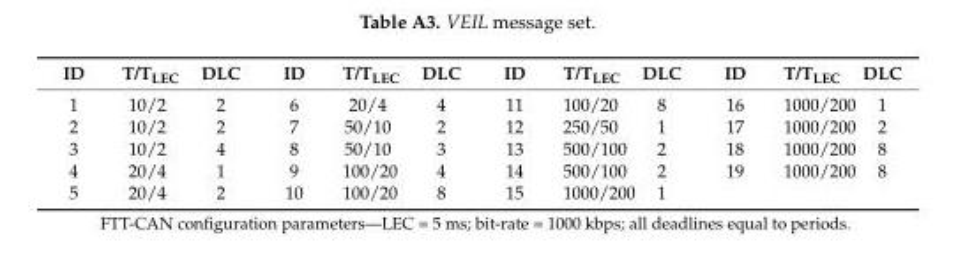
<table><thead><tr><td>ID</td><td>T/T<sub>LEC</sub></td><td>DLC</td><td>ID</td><td>T/T<sub>LEC</sub></td><td>DLC</td><td>ID</td><td>T/T<sub>LEC</sub></td><td>DLC</td><td>ID</td><td>T/T<sub>LEC</sub></td><td>DLC</td></tr></thead><tbody><tr><td>1</td><td>10/2</td><td>2</td><td>6</td><td>20/4</td><td>4</td><td>11</td><td>100/20</td><td>8</td><td>16</td><td>1000/200</td><td>1</td></tr><tr><td>2</td><td>10/2</td><td>2</td><td>7</td><td>50/10</td><td>2</td><td>12</td><td>250/50</td><td>1</td><td>17</td><td>1000/200</td><td>2</td></tr><tr><td>3</td><td>10/2</td><td>4</td><td>8</td><td>50/10</td><td>3</td><td>13</td><td>500/100</td><td>2</td><td>18</td><td>1000/200</td><td>8</td></tr><tr><td>4</td><td>20/4</td><td>1</td><td>9</td><td>100/20</td><td>4</td><td>14</td><td>500/100</td><td>2</td><td>19</td><td>1000/200</td><td>8</td></tr><tr><td>5</td><td>20/4</td><td>2</td><td>10</td><td>100/20</td><td>8</td><td>15</td><td>1000/200</td><td>1</td><td></td><td></td><td></td></tr></tbody></table>